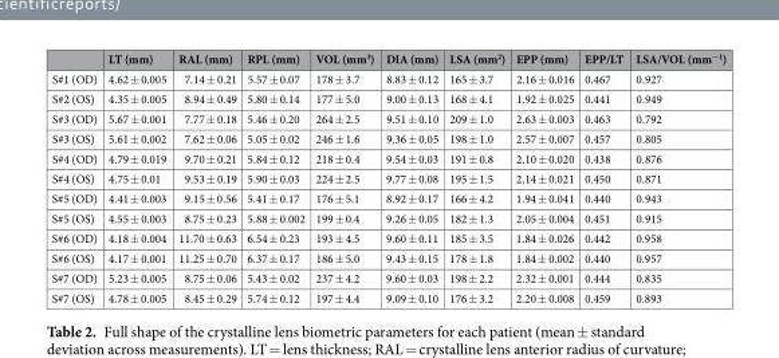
<table><thead><tr><td></td><td>LT (mm)</td><td>RAL (mm)</td><td>RPL (mm)</td><td>VOL (mm<sup>3</sup>)</td><td>DIA (mm)</td><td>LSA (mm<sup>2</sup>)</td><td>EPP (mm)</td><td>EPP/LT</td><td>LSA/VOL (mm<sup>−1</sup>)</td></tr></thead><tbody><tr><td>S#1 (OD)</td><td>4.62 ± 0.005</td><td>7.14 ± 0.21</td><td>5.57 ± 0.07</td><td>178 ± 3.7</td><td>8.83 ± 0.12</td><td>165 ± 3.7</td><td>2.16 ± 0.016</td><td>0.467</td><td>0.927</td></tr><tr><td>S#2 (OS)</td><td>4.35 ± 0.005</td><td>8.94 ± 0.49</td><td>5.80 ± 0.14</td><td>177 ± 5.0</td><td>9.00 ± 0.13</td><td>168 ± 4.1</td><td>1.92 ± 0.025</td><td>0.441</td><td>0.949</td></tr><tr><td>S#3 (OD)</td><td>5.67 ± 0.001</td><td>7.77 ± 0.18</td><td>5.46 ± 0.20</td><td>264 ± 2.5</td><td>9.51 ± 0.10</td><td>209 ± 1.0</td><td>2.63 ± 0.003</td><td>0.463</td><td>0.792</td></tr><tr><td>S#3 (OS)</td><td>5.61 ± 0.002</td><td>7.62 ± 0.06</td><td>5.05 ± 0.02</td><td>246 ± 1.6</td><td>9.36 ± 0.05</td><td>198 ± 1.0</td><td>2.57 ± 0.007</td><td>0.457</td><td>0.805</td></tr><tr><td>S#4 (OD)</td><td>4.79 ± 0.019</td><td>9.70 ± 0.21</td><td>5.84 ± 0.12</td><td>218 ± 0.4</td><td>9.54 ± 0.03</td><td>191 ± 0.8</td><td>2.10 ± 0.020</td><td>0.438</td><td>0.876</td></tr><tr><td>S#4 (OS)</td><td>4.75 ± 0.01</td><td>9.53 ± 0.19</td><td>5.90 ± 0.03</td><td>224 ± 2.5</td><td>9.77 ± 0.08</td><td>195 ± 1.5</td><td>2.14 ± 0.021</td><td>0.450</td><td>0.871</td></tr><tr><td>S#5 (OD)</td><td>4.41 ± 0.003</td><td>9.15 ± 0.56</td><td>5.41 ± 0.17</td><td>176 ± 5.1</td><td>8.92 ± 0.17</td><td>166 ± 4.2</td><td>1.94 ± 0.041</td><td>0.440</td><td>0.943</td></tr><tr><td>S#5 (OS)</td><td>4.55 ± 0.003</td><td>8.75 ± 0.23</td><td>5.88 ± 0.002</td><td>199 ± 0.4</td><td>9.26 ± 0.05</td><td>182 ± 1.3</td><td>2.05 ± 0.004</td><td>0.451</td><td>0.915</td></tr><tr><td>S#6 (OD)</td><td>4.18 ± 0.004</td><td>11.70 ± 0.63</td><td>6.54 ± 0.23</td><td>193 ± 4.5</td><td>9.60 ± 0.11</td><td>185 ± 3.5</td><td>1.84 ± 0.026</td><td>0.442</td><td>0.958</td></tr><tr><td>S#6 (OS)</td><td>4.17 ± 0.001</td><td>11.25 ± 0.70</td><td>6.37 ± 0.17</td><td>186 ± 5.0</td><td>9.43 ± 0.15</td><td>178 ± 1.8</td><td>1.84 ± 0.002</td><td>0.440</td><td>0.957</td></tr><tr><td>S#7 (OD)</td><td>5.23 ± 0.005</td><td>8.75 ± 0.06</td><td>5.43 ± 0.02</td><td>237 ± 4.2</td><td>9.60 ± 0.03</td><td>198 ± 2.2</td><td>2.32 ± 0.001</td><td>0.444</td><td>0.835</td></tr><tr><td>S#7 (OS)</td><td>4.78 ± 0.005</td><td>8.45 ± 0.29</td><td>5.74 ± 0.12</td><td>197 ± 4.4</td><td>9.09 ± 0.10</td><td>176 ± 3.2</td><td>2.20 ± 0.008</td><td>0.459</td><td>0.893</td></tr></tbody></table>